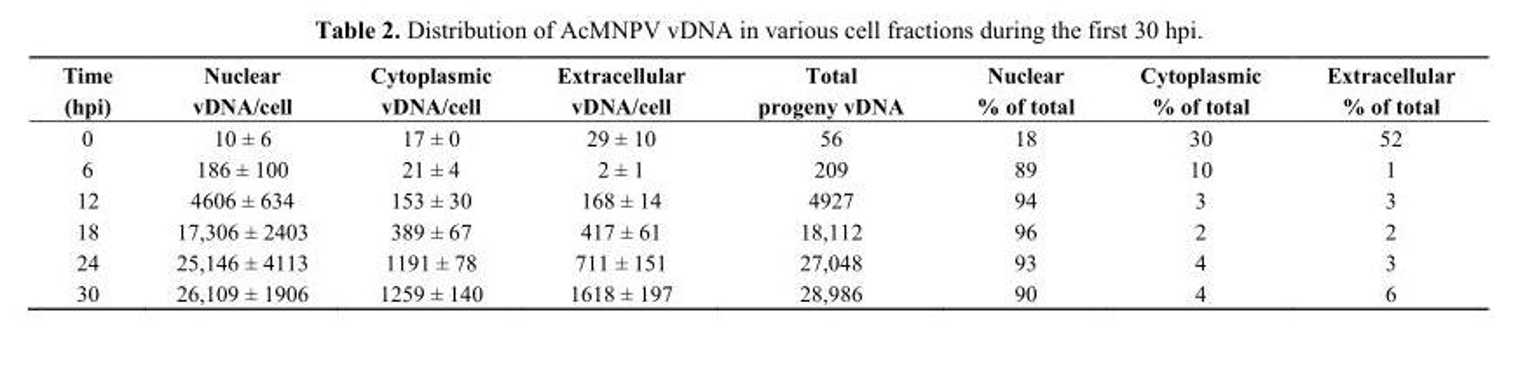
<table><thead><tr><td>Time (hpi)</td><td>Nuclear vDNA/cell</td><td>Cytoplasmic vDNA/cell</td><td>Extracellular vDNA/cell</td><td>Total progeny vDNA</td><td>Nuclear % of total</td><td>Cytoplasmic % of total</td><td>Extracellular % of total</td></tr></thead><tbody><tr><td>0</td><td>10 ± 6</td><td>17 ± 0</td><td>29 ± 10</td><td>56</td><td>18</td><td>30</td><td>52</td></tr><tr><td>6</td><td>186 ± 100</td><td>21 ± 4</td><td>2 ± 1</td><td>209</td><td>89</td><td>10</td><td>1</td></tr><tr><td>12</td><td>4606 ± 634</td><td>153 ± 30</td><td>168 ± 14</td><td>4927</td><td>94</td><td>3</td><td>3</td></tr><tr><td>18</td><td>17,306 ± 2403</td><td>389 ± 67</td><td>417 ± 61</td><td>18,112</td><td>96</td><td>2</td><td>2</td></tr><tr><td>24</td><td>25,146 ± 4113</td><td>1191 ± 78</td><td>711 ± 151</td><td>27,048</td><td>93</td><td>4</td><td>3</td></tr><tr><td>30</td><td>26,109 ± 1906</td><td>1259 ± 140</td><td>1618 ± 197</td><td>28,986</td><td>90</td><td>4</td><td>6</td></tr></tbody></table>